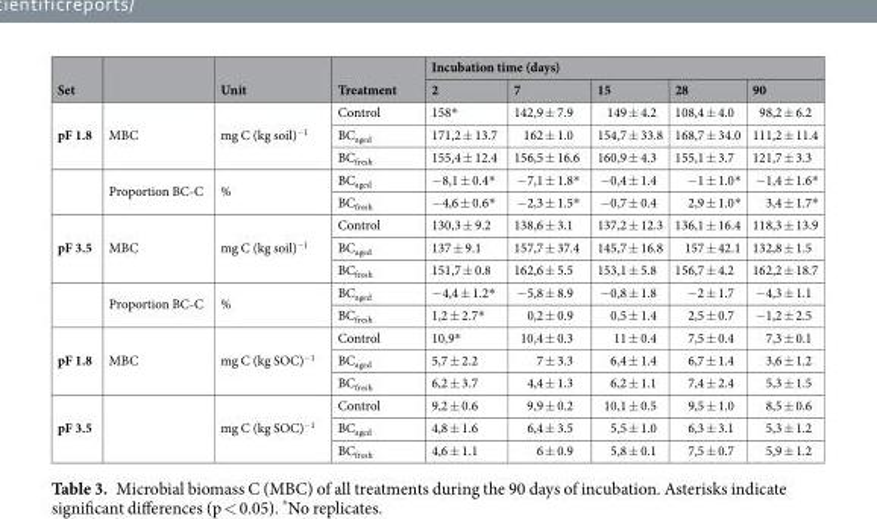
<table><thead><tr><td rowspan="2">Set</td><td rowspan="2"></td><td rowspan="2">Unit</td><td rowspan="2">Treatment</td><td colspan="5">Incubation time (days)</td></tr><tr><td>2</td><td>7</td><td>15</td><td>28</td><td>90</td></tr></thead><tbody><tr><td rowspan="5">pF 1.8</td><td rowspan="3">MBC</td><td rowspan="3">mg C (kg soil)<sup>−1</sup></td><td>Control</td><td>158*</td><td>142,9 ± 7.9</td><td>149 ± 4.2</td><td>108,4 ± 4.0</td><td>98,2 ± 6.2</td></tr><tr><td>BC<sub>aged</sub></td><td>171,2 ± 13.7</td><td>162 ± 1.0</td><td>154,7 ± 33.8</td><td>168,7 ± 34.0</td><td>111,2 ± 11.4</td></tr><tr><td>BC<sub>fresh</sub></td><td>155,4 ± 12.4</td><td>156,5 ± 16.6</td><td>160,9 ± 4.3</td><td>155,1 ± 3.7</td><td>121,7 ± 3.3</td></tr><tr><td rowspan="2">Proportion BC-C</td><td rowspan="2">%</td><td>BC<sub>aged</sub></td><td>−8,1 ± 0.4*</td><td>−7,1 ± 1.8*</td><td>−0,4 ± 1.4</td><td>−1 ± 1.0*</td><td>−1,4 ± 1.6*</td></tr><tr><td>BC<sub>fresh</sub></td><td>−4,6 ± 0.6*</td><td>−2,3 ± 1.5*</td><td>−0,7 ± 0.4</td><td>2,9 ± 1.0*</td><td>3,4 ± 1.7*</td></tr><tr><td rowspan="5">pF 3.5</td><td rowspan="3">MBC</td><td rowspan="3">mg C (kg soil)<sup>−1</sup></td><td>Control</td><td>130,3 ± 9.2</td><td>138,6 ± 3.1</td><td>137,2 ± 12.3</td><td>136,1 ± 16.4</td><td>118,3 ± 13.9</td></tr><tr><td>BC<sub>aged</sub></td><td>137 ± 9.1</td><td>157,7 ± 37.4</td><td>145,7 ± 16.8</td><td>157 ± 42.1</td><td>132,8 ± 1.5</td></tr><tr><td>BC<sub>fresh</sub></td><td>151,7 ± 0.8</td><td>162,6 ± 5.5</td><td>153,1 ± 5.8</td><td>156,7 ± 4.2</td><td>162,2 ± 18.7</td></tr><tr><td rowspan="2">Proportion BC-C</td><td rowspan="2">%</td><td>BC<sub>aged</sub></td><td>−4,4 ± 1.2*</td><td>−5,8 ± 8.9</td><td>−0,8 ± 1.8</td><td>−2 ± 1.7</td><td>−4,3 ± 1.1</td></tr><tr><td>BC<sub>fresh</sub></td><td>1,2 ± 2.7*</td><td>0,2 ± 0.9</td><td>0,5 ± 1.4</td><td>2,5 ± 0.7</td><td>−1,2 ± 2.5</td></tr><tr><td rowspan="3">pF 1.8</td><td rowspan="3">MBC</td><td rowspan="3">mg C (kg SOC)<sup>−1</sup></td><td>Control</td><td>10,9*</td><td>10,4 ± 0.3</td><td>11 ± 0.4</td><td>7,5 ± 0.4</td><td>7,3 ± 0.1</td></tr><tr><td>BC<sub>aged</sub></td><td>5,7 ± 2.2</td><td>7 ± 3.3</td><td>6,4 ± 1.4</td><td>6,7 ± 1.4</td><td>3,6 ± 1.2</td></tr><tr><td>BC<sub>fresh</sub></td><td>6,2 ± 3.7</td><td>4,4 ± 1.3</td><td>6,2 ± 1.1</td><td>7,4 ± 2.4</td><td>5,3 ± 1.5</td></tr><tr><td rowspan="3">pF 3.5</td><td rowspan="3"></td><td rowspan="3">mg C (kg SOC)<sup>−1</sup></td><td>Control</td><td>9,2 ± 0.6</td><td>9,9 ± 0.2</td><td>10,1 ± 0.5</td><td>9,5 ± 1.0</td><td>8,5 ± 0.6</td></tr><tr><td>BC<sub>aged</sub></td><td>4,8 ± 1.6</td><td>6,4 ± 3.5</td><td>5,5 ± 1.0</td><td>6,3 ± 3.1</td><td>5,3 ± 1.2</td></tr><tr><td>BC<sub>fresh</sub></td><td>4,6 ± 1.1</td><td>6 ± 0.9</td><td>5,8 ± 0.1</td><td>7,5 ± 0.7</td><td>5,9 ± 1.2</td></tr></tbody></table>